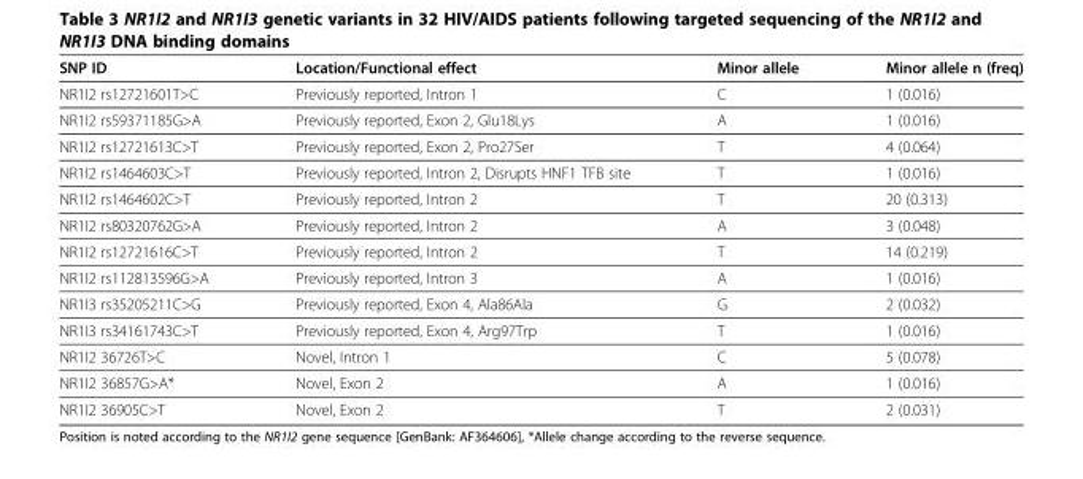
<table><thead><tr><td>SNP ID</td><td>Location/Functional effect</td><td>Minor allele</td><td>Minor allele n (freq)</td></tr></thead><tbody><tr><td>NR1I2 rs12721601T&gt;C</td><td>Previously reported, Intron 1</td><td>C</td><td>1 (0.016)</td></tr><tr><td>NR1I2 rs59371185G&gt;A</td><td>Previously reported, Exon 2, Glu18Lys</td><td>A</td><td>1 (0.016)</td></tr><tr><td>NR1I2 rs12721613C&gt;T</td><td>Previously reported, Exon 2, Pro27Ser</td><td>T</td><td>4 (0.064)</td></tr><tr><td>NR1I2 rs1464603C&gt;T</td><td>Previously reported, Intron 2, Disrupts HNF1 TFB site</td><td>T</td><td>1 (0.016)</td></tr><tr><td>NR1I2 rs1464602C&gt;T</td><td>Previously reported, Intron 2</td><td>T</td><td>20 (0.313)</td></tr><tr><td>NR1I2 rs80320762G&gt;A</td><td>Previously reported, Intron 2</td><td>A</td><td>3 (0.048)</td></tr><tr><td>NR1I2 rs12721616C&gt;T</td><td>Previously reported, Intron 2</td><td>T</td><td>14 (0.219)</td></tr><tr><td>NR1I2 rs112813596G&gt;A</td><td>Previously reported, Intron 3</td><td>A</td><td>1 (0.016)</td></tr><tr><td>NR1I3 rs35205211C&gt;G</td><td>Previously reported, Exon 4, Ala86Ala</td><td>G</td><td>2 (0.032)</td></tr><tr><td>NR1I3 rs34161743C&gt;T</td><td>Previously reported, Exon 4, Arg97Trp</td><td>T</td><td>1 (0.016)</td></tr><tr><td>NR1I2 36726T&gt;C</td><td>Novel, Intron 1</td><td>C</td><td>5 (0.078)</td></tr><tr><td>NR1I2 36857G&gt;A*</td><td>Novel, Exon 2</td><td>A</td><td>1 (0.016)</td></tr><tr><td>NR1I2 36905C&gt;T</td><td>Novel, Exon 2</td><td>T</td><td>2 (0.031)</td></tr></tbody></table>